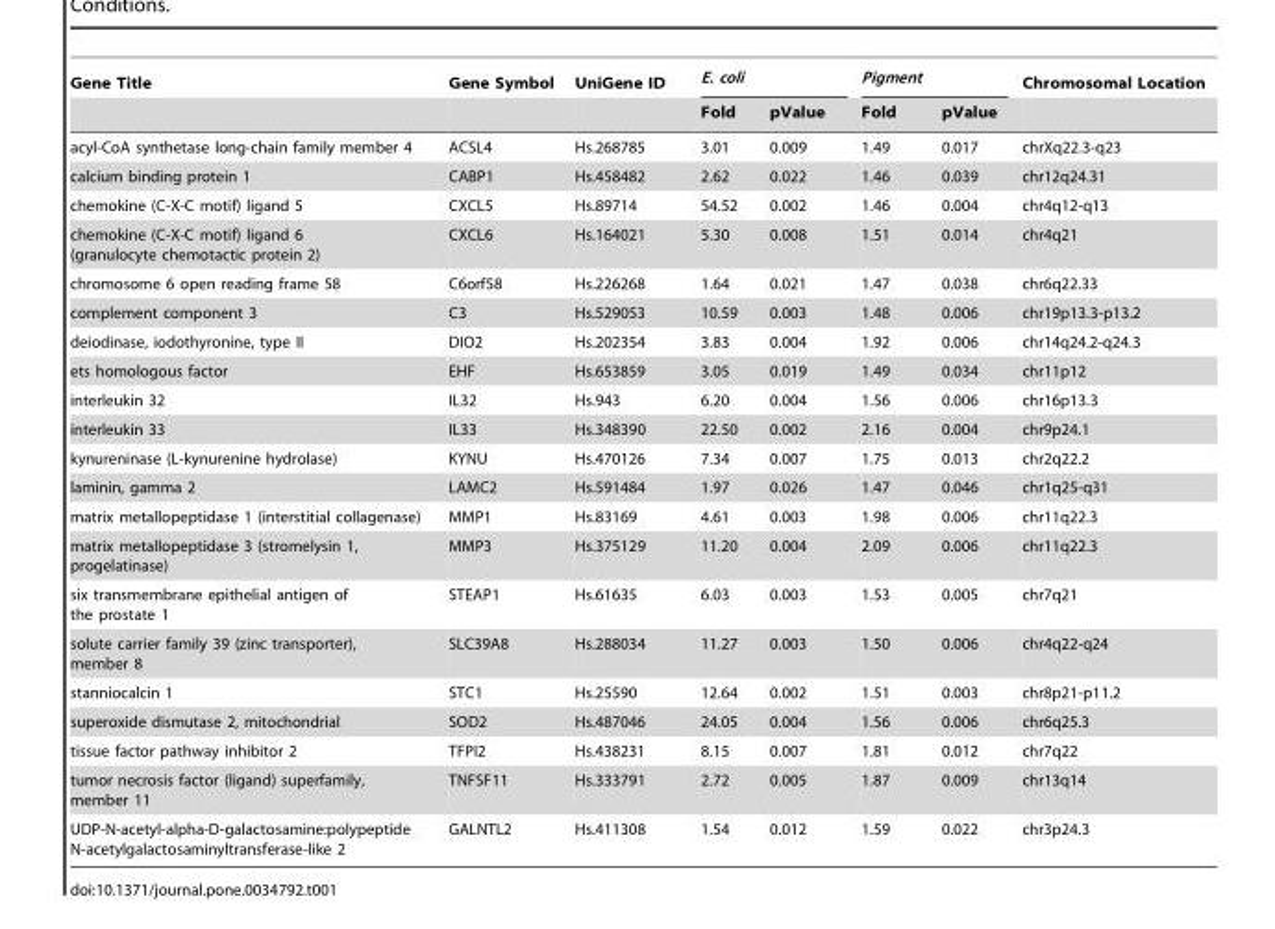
<table><thead><tr><td rowspan="2">Gene Title</td><td rowspan="2">Gene Symbol</td><td rowspan="2">UniGene ID</td><td colspan="2">E. coli</td><td colspan="2">Pigment</td><td rowspan="2">Chromosomal Location</td></tr><tr><td>Fold</td><td>pValue</td><td>Fold</td><td>pValue</td></tr></thead><tbody><tr><td>acyl-CoA synthetase long-chain family member 4</td><td>ACSL4</td><td>Hs.268785</td><td>3.01</td><td>0.009</td><td>1.49</td><td>0.017</td><td>chrXq22.3-q23</td></tr><tr><td>calcium binding protein 1</td><td>CABP1</td><td>Hs.458482</td><td>2.62</td><td>0.022</td><td>1.46</td><td>0.039</td><td>chr12q24.31</td></tr><tr><td>chemokine (C-X-C motif) ligand 5</td><td>CXCL5</td><td>Hs.89714</td><td>54.52</td><td>0.002</td><td>1.46</td><td>0.004</td><td>chr4q12-q13</td></tr><tr><td>chemokine (C-X-C motif) ligand 6 (granulocyte chemotactic protein 2)</td><td>CXCL6</td><td>Hs.164021</td><td>5.30</td><td>0.008</td><td>1.51</td><td>0.014</td><td>chr4q21</td></tr><tr><td>chromosome 6 open reading frame 58</td><td>C6orf58</td><td>Hs.226268</td><td>1.64</td><td>0.021</td><td>1.47</td><td>0.038</td><td>chr6q22.33</td></tr><tr><td>complement component 3</td><td>C3</td><td>Hs.529053</td><td>10.59</td><td>0.003</td><td>1.48</td><td>0.006</td><td>chr19p13.3-p13.2</td></tr><tr><td>deiodinase, iodothyronine, type II</td><td>DIO2</td><td>Hs.202354</td><td>3.83</td><td>0.004</td><td>1.92</td><td>0.006</td><td>chr14q24.2-q24.3</td></tr><tr><td>ets homologous factor</td><td>EHF</td><td>Hs.653859</td><td>3.05</td><td>0.019</td><td>1.49</td><td>0.034</td><td>chr11p12</td></tr><tr><td>interleukin 32</td><td>IL32</td><td>Hs.943</td><td>6.20</td><td>0.004</td><td>1.56</td><td>0.006</td><td>chr16p13.3</td></tr><tr><td>interleukin 33</td><td>IL33</td><td>Hs.348390</td><td>22.50</td><td>0.002</td><td>2.16</td><td>0.004</td><td>chr9p24.1</td></tr><tr><td>kynureninase (L-kynurenine hydrolase)</td><td>KYNU</td><td>Hs.470126</td><td>7.34</td><td>0.007</td><td>1.75</td><td>0.013</td><td>chr2q22.2</td></tr><tr><td>laminin, gamma 2</td><td>LAMC2</td><td>Hs.591484</td><td>1.97</td><td>0.026</td><td>1.47</td><td>0.046</td><td>chr1q25-q31</td></tr><tr><td>matrix metallopeptidase 1 (interstitial collagenase)</td><td>MMP1</td><td>Hs.83169</td><td>4.61</td><td>0.003</td><td>1.98</td><td>0.006</td><td>chr11q22.3</td></tr><tr><td>matrix metallopeptidase 3 (stromelysin 1, progelatinase)</td><td>MMP3</td><td>Hs.375129</td><td>11.20</td><td>0.004</td><td>2.09</td><td>0.006</td><td>chr11q22.3</td></tr><tr><td>six transmembrane epithelial antigen of the prostate 1</td><td>STEAP1</td><td>Hs.61635</td><td>6.03</td><td>0.003</td><td>1.53</td><td>0.005</td><td>chr7q21</td></tr><tr><td>solute carrier family 39 (zinc transporter), member 8</td><td>SLC39A8</td><td>Hs.288034</td><td>11.27</td><td>0.003</td><td>1.50</td><td>0.006</td><td>chr4q22-q24</td></tr><tr><td>stanniocalcin 1</td><td>STC1</td><td>Hs.25590</td><td>12.64</td><td>0.002</td><td>1.51</td><td>0.003</td><td>chr8p21-p11.2</td></tr><tr><td>superoxide dismutase 2, mitochondrial</td><td>SOD2</td><td>Hs.487046</td><td>24.05</td><td>0.004</td><td>1.56</td><td>0.006</td><td>chr6q25.3</td></tr><tr><td>tissue factor pathway inhibitor 2</td><td>TFPI2</td><td>Hs.438231</td><td>8.15</td><td>0.007</td><td>1.81</td><td>0.012</td><td>chr7q22</td></tr><tr><td>tumor necrosis factor (ligand) superfamily, member 11</td><td>TNFSF11</td><td>Hs.333791</td><td>2.72</td><td>0.005</td><td>1.87</td><td>0.009</td><td>chr13q14</td></tr><tr><td>UDP-N-acetyl-alpha-D-galactosamine:polypeptide N-acetylgalactosaminyltransferase-like 2</td><td>GALNTL2</td><td>Hs.411308</td><td>1.54</td><td>0.012</td><td>1.59</td><td>0.022</td><td>chr3p24.3</td></tr></tbody></table>